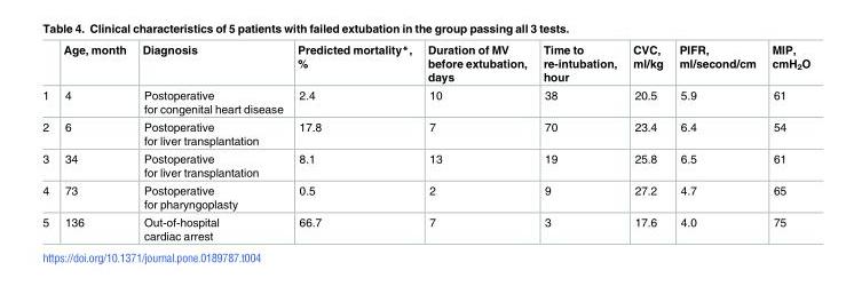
<table><thead><tr><td></td><td>Age, month</td><td>Diagnosis</td><td>Predicted mortality*, %</td><td>Duration of MV before extubation, days</td><td>Time to re-intubation, hour</td><td>CVC, ml/kg</td><td>PIFR, ml/second/cm</td><td>MIP, cmH<sub>2</sub>O</td></tr></thead><tbody><tr><td>1</td><td>4</td><td>Postoperative for congenital heart disease</td><td>2.4</td><td>10</td><td>38</td><td>20.5</td><td>5.9</td><td>61</td></tr><tr><td>2</td><td>6</td><td>Postoperative for liver transplantation</td><td>17.8</td><td>7</td><td>70</td><td>23.4</td><td>6.4</td><td>54</td></tr><tr><td>3</td><td>34</td><td>Postoperative for liver transplantation</td><td>8.1</td><td>13</td><td>19</td><td>25.8</td><td>6.5</td><td>61</td></tr><tr><td>4</td><td>73</td><td>Postoperative for pharyngoplasty</td><td>0.5</td><td>2</td><td>9</td><td>27.2</td><td>4.7</td><td>65</td></tr><tr><td>5</td><td>136</td><td>Out-of-hospital cardiac arrest</td><td>66.7</td><td>7</td><td>3</td><td>17.6</td><td>4.0</td><td>75</td></tr></tbody></table>